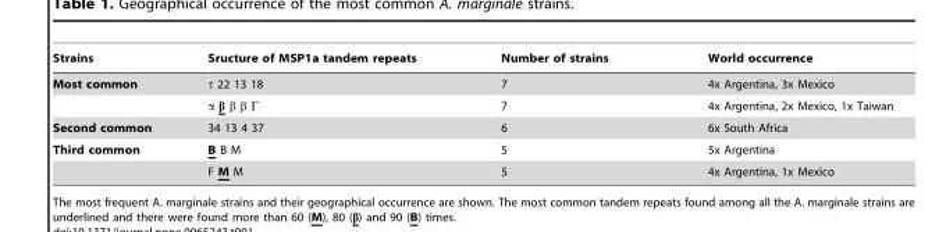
<table><thead><tr><td>Strains</td><td>Sructure of MSP1a tandem repeats</td><td>Number of strains</td><td>World occurrence</td></tr></thead><tbody><tr><td rowspan="2">Most common</td><td>τ 22 13 18</td><td>7</td><td>4x Argentina, 3x Mexico</td></tr><tr><td>α β β β Γ</td><td>7</td><td>4x Argentina, 2x Mexico, 1x Taiwan</td></tr><tr><td>Second common</td><td>34 13 4 37</td><td>6</td><td>6x South Africa</td></tr><tr><td rowspan="2">Third common</td><td>B B M</td><td>5</td><td>5x Argentina</td></tr><tr><td>F M M</td><td>5</td><td>4x Argentina, 1x Mexico</td></tr></tbody></table>